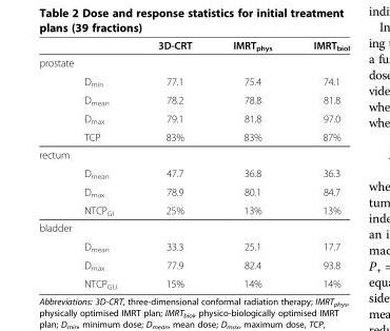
<table><thead><tr><td></td><td></td><td>3D-CRT</td><td>IMRT<sub>phys</sub></td><td>IMRT<sub>biol</sub></td></tr></thead><tbody><tr><td colspan="5">prostate</td></tr><tr><td></td><td>D<sub>min</sub></td><td>77.1</td><td>75.4</td><td>74.1</td></tr><tr><td></td><td>D<sub>mean</sub></td><td>78.2</td><td>78.8</td><td>81.8</td></tr><tr><td></td><td>D<sub>max</sub></td><td>79.1</td><td>81.8</td><td>97.0</td></tr><tr><td></td><td>TCP</td><td>83%</td><td>83%</td><td>87%</td></tr><tr><td colspan="5">rectum</td></tr><tr><td></td><td>D<sub>mean</sub></td><td>47.7</td><td>36.8</td><td>36.3</td></tr><tr><td></td><td>D<sub>max</sub></td><td>78.9</td><td>80.1</td><td>84.7</td></tr><tr><td></td><td>NTCP<sub>GI</sub></td><td>25%</td><td>13%</td><td>13%</td></tr><tr><td colspan="5">bladder</td></tr><tr><td></td><td>D<sub>mean</sub></td><td>33.3</td><td>25.1</td><td>17.7</td></tr><tr><td></td><td>D<sub>max</sub></td><td>77.9</td><td>82.4</td><td>93.8</td></tr><tr><td></td><td>NTCP<sub>GU</sub></td><td>15%</td><td>14%</td><td>14%</td></tr></tbody></table>